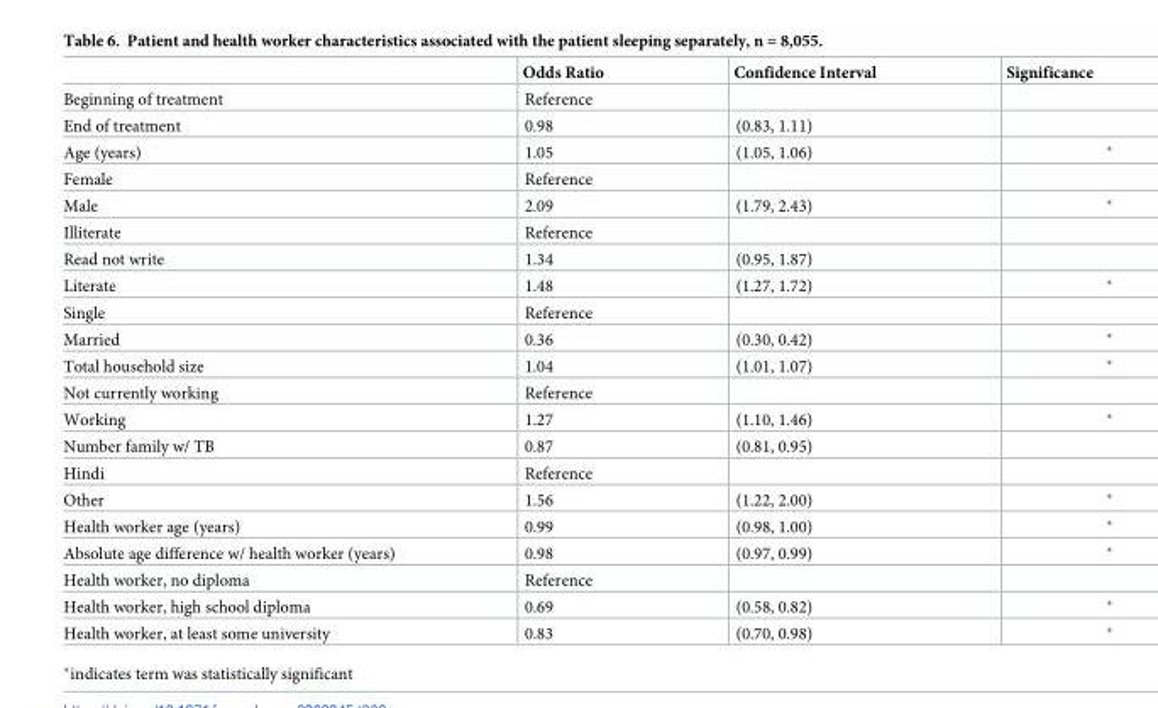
<table><thead><tr><td></td><td>Odds Ratio</td><td>Confidence Interval</td><td>Significance</td></tr></thead><tbody><tr><td>Beginning of treatment</td><td>Reference</td><td></td><td></td></tr><tr><td>End of treatment</td><td>0.98</td><td>(0.83, 1.11)</td><td></td></tr><tr><td>Age (years)</td><td>1.05</td><td>(1.05, 1.06)</td><td></td></tr><tr><td>Female</td><td>Reference</td><td></td><td></td></tr><tr><td>Male</td><td>2.09</td><td>(1.79, 2.43)</td><td></td></tr><tr><td>Illiterate</td><td>Reference</td><td></td><td></td></tr><tr><td>Read not write</td><td>1.34</td><td>(0.95, 1.87)</td><td></td></tr><tr><td>Literate</td><td>1.48</td><td>(1.27, 1.72)</td><td></td></tr><tr><td>Single</td><td>Reference</td><td></td><td></td></tr><tr><td>Married</td><td>0.36</td><td>(0.30, 0.42)</td><td></td></tr><tr><td>Total household size</td><td>1.04</td><td>(1.01, 1.07)</td><td></td></tr><tr><td>Not currently working</td><td>Reference</td><td></td><td></td></tr><tr><td>Working</td><td>1.27</td><td>(1.10, 1.46)</td><td></td></tr><tr><td>Number family w/ TB</td><td>0.87</td><td>(0.81, 0.95)</td><td></td></tr><tr><td>Hindi</td><td>Reference</td><td></td><td></td></tr><tr><td>Other</td><td>1.56</td><td>(1.22, 2.00)</td><td></td></tr><tr><td>Health worker age (years)</td><td>0.99</td><td>(0.98, 1.00)</td><td></td></tr><tr><td>Absolute age difference w/ health worker (years)</td><td>0.98</td><td>(0.97, 0.99)</td><td></td></tr><tr><td>Health worker, no diploma</td><td>Reference</td><td></td><td></td></tr><tr><td>Health worker, high school diploma</td><td>0.69</td><td>(0.58, 0.82)</td><td></td></tr><tr><td>Health worker, at least some university</td><td>0.83</td><td>(0.70, 0.98)</td><td></td></tr></tbody></table>